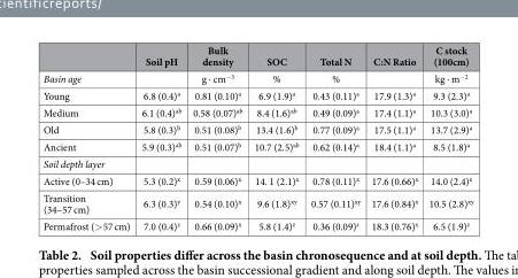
<table><thead><tr><td></td><td>Soil pH</td><td>Bulk density</td><td>SOC</td><td>Total N</td><td>C:N Ratio</td><td>C stock (100cm)</td></tr></thead><tbody><tr><td>Basin age</td><td></td><td>g · cm<sup>−3</sup></td><td>%</td><td>%</td><td></td><td>kg · m<sup>−2</sup></td></tr><tr><td>Young</td><td>6.8 (0.4)<sup>a</sup></td><td>0.81 (0.10)<sup>a</sup></td><td>6.9 (1.9)<sup>a</sup></td><td>0.43 (0.11)<sup>a</sup></td><td>17.9 (1.3)<sup>a</sup></td><td>9.3 (2.3)<sup>a</sup></td></tr><tr><td>Medium</td><td>6.1 (0.4)<sup>ab</sup></td><td>0.58 (0.07)<sup>ab</sup></td><td>8.4 (1.6)<sup>ab</sup></td><td>0.49 (0.09)<sup>a</sup></td><td>17.4 (1.1)<sup>a</sup></td><td>10.3 (3.0)<sup>a</sup></td></tr><tr><td>Old</td><td>5.8 (0.3)<sup>b</sup></td><td>0.51 (0.08)<sup>b</sup></td><td>13.4 (1.6)<sup>b</sup></td><td>0.77 (0.09)<sup>a</sup></td><td>17.5 (1.1)<sup>a</sup></td><td>13.7 (2.9)<sup>a</sup></td></tr><tr><td>Ancient</td><td>5.9 (0.3)<sup>ab</sup></td><td>0.51 (0.07)<sup>b</sup></td><td>10.7 (2.5)<sup>ab</sup></td><td>0.62 (0.14)<sup>a</sup></td><td>18.4 (1.1)<sup>a</sup></td><td>8.5 (1.8)<sup>a</sup></td></tr><tr><td colspan="7">Soil depth layer</td></tr><tr><td>Active (0–34 cm)</td><td>5.3 (0.2)<sup>x</sup></td><td>0.59 (0.06)<sup>x</sup></td><td>14. 1 (2.1)<sup>x</sup></td><td>0.78 (0.11)<sup>x</sup></td><td>17.6 (0.66)<sup>x</sup></td><td>14.0 (2.4)<sup>x</sup></td></tr><tr><td>Transition (34–57 cm)</td><td>6.3 (0.3)<sup>y</sup></td><td>0.54 (0.10)<sup>x</sup></td><td>9.6 (1.8)<sup>xy</sup></td><td>0.57 (0.11)<sup>xy</sup></td><td>17.6 (0.84)<sup>x</sup></td><td>10.5 (2.8)<sup>xy</sup></td></tr><tr><td>Permafrost (&gt; 57 cm)</td><td>7.0 (0.4)<sup>z</sup></td><td>0.66 (0.09)<sup>x</sup></td><td>5.8 (1.4)<sup>z</sup></td><td>0.36 (0.09)<sup>z</sup></td><td>18.3 (0.76)<sup>x</sup></td><td>6.5 (1.9)<sup>z</sup></td></tr></tbody></table>